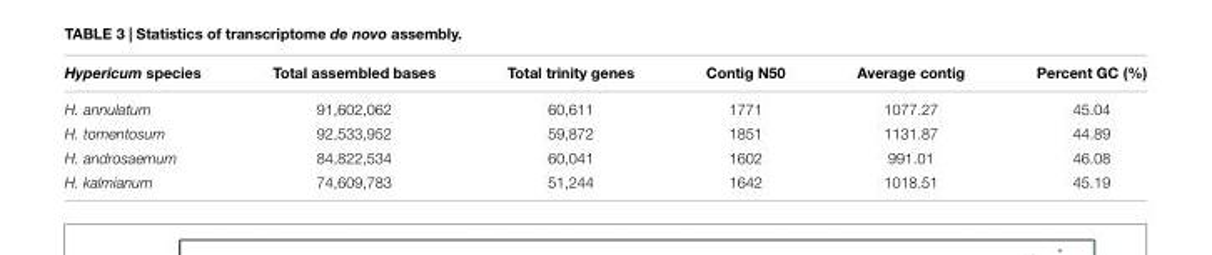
<table><thead><tr><td>Hypericum species</td><td>Total assembled bases</td><td>Total trinity genes</td><td>Contig N50</td><td>Average contig</td><td>Percent GC (%)</td></tr></thead><tbody><tr><td>H. annulatum</td><td>91,602,062</td><td>60,611</td><td>1771</td><td>1077.27</td><td>45.04</td></tr><tr><td>H. tomentosum</td><td>92,533,952</td><td>59,872</td><td>1851</td><td>1131.87</td><td>44.89</td></tr><tr><td>H. androsaemum</td><td>84,822,534</td><td>60,041</td><td>1602</td><td>991.01</td><td>46.08</td></tr><tr><td>H. kalmianum</td><td>74,609,783</td><td>51,244</td><td>1642</td><td>1018.51</td><td>45.19</td></tr></tbody></table>